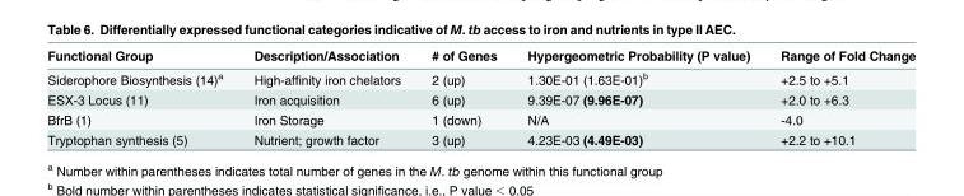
<table><thead><tr><td>Functional Group</td><td>Description/Association</td><td># of Genes</td><td>Hypergeometric Probability (P value)</td><td>Range of Fold Change</td></tr></thead><tbody><tr><td>Siderophore Biosynthesis (14)<sup>a</sup></td><td>High-affinity iron chelators</td><td>2 (up)</td><td>1.30E-01 (1.63E-01)<sup>b</sup></td><td>+2.5 to +5.1</td></tr><tr><td>ESX-3 Locus (11)</td><td>Iron acquisition</td><td>6 (up)</td><td>9.39E-07 (9.96E-07)</td><td>+2.0 to +6.3</td></tr><tr><td>BfrB (1)</td><td>Iron Storage</td><td>1 (down)</td><td>N/A</td><td>-4.0</td></tr><tr><td>Tryptophan synthesis (5)</td><td>Nutrient; growth factor</td><td>3 (up)</td><td>4.23E-03 (4.49E-03)</td><td>+2.2 to +10.1</td></tr></tbody></table>